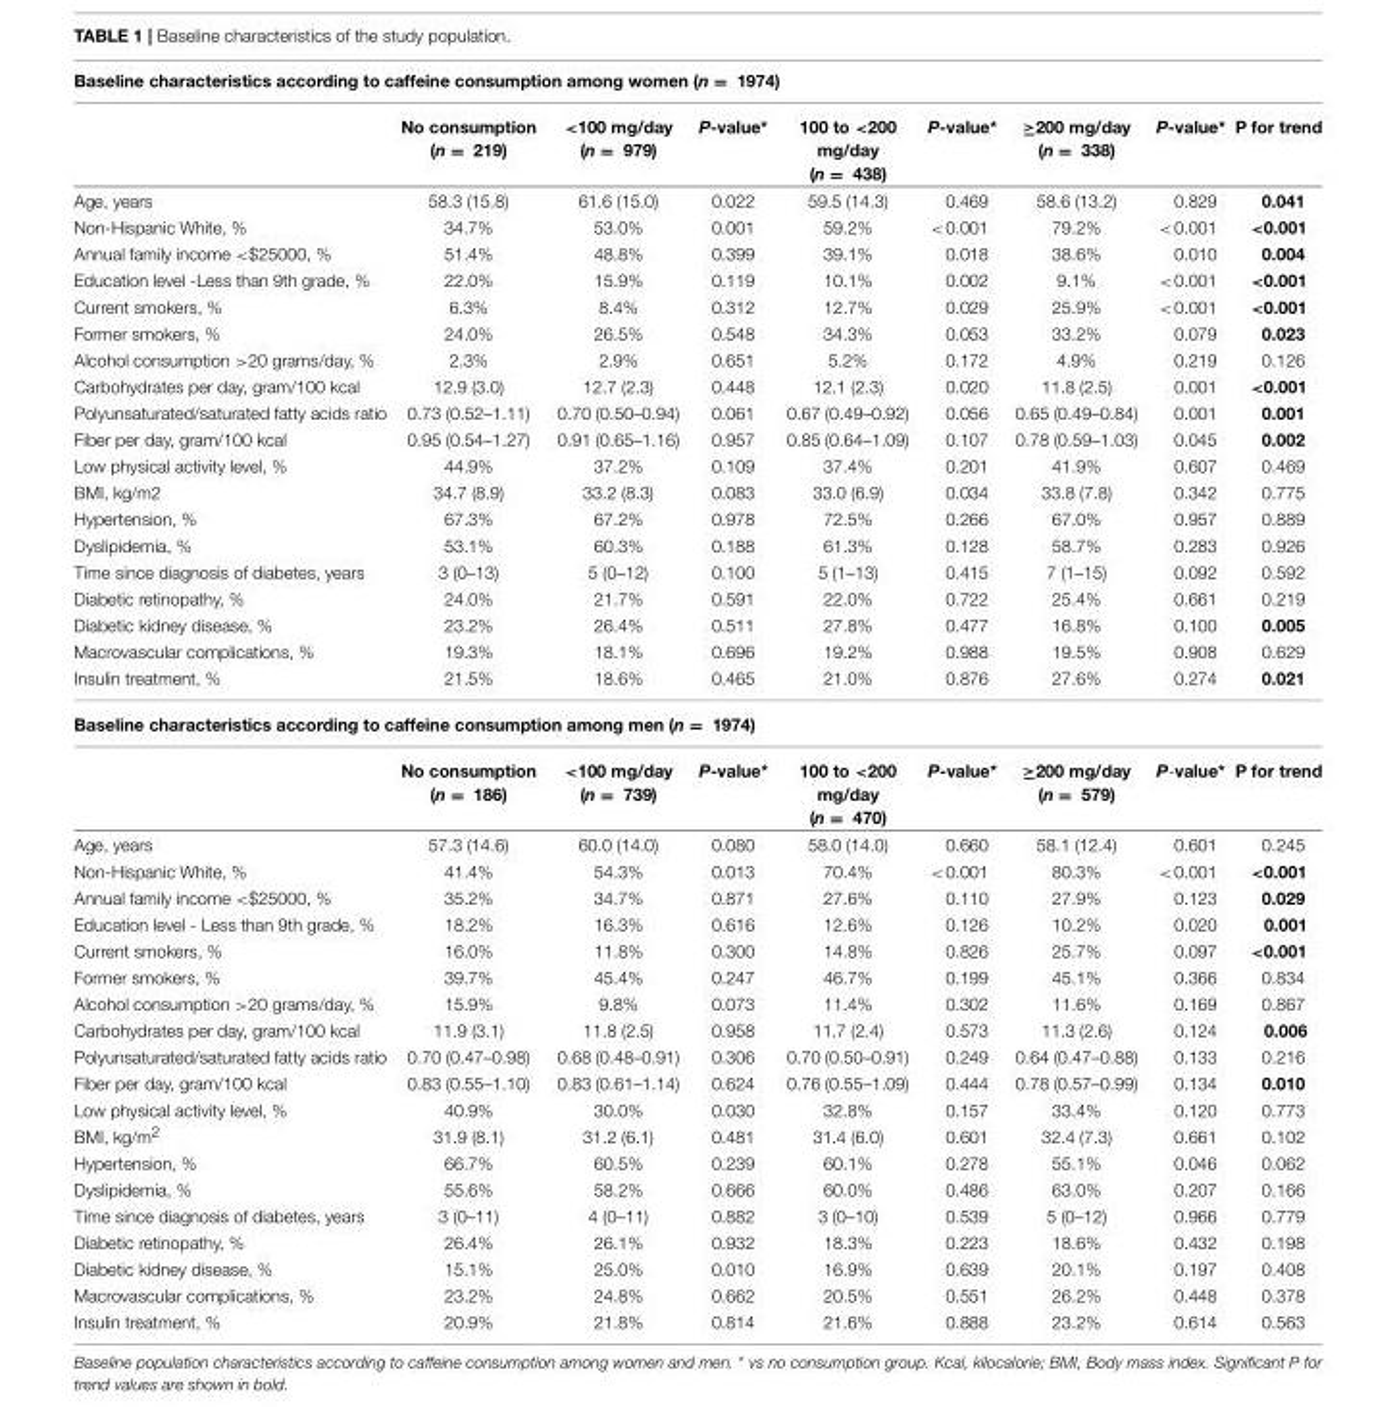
<table><thead><tr><td colspan="9">Baseline characteristics according to caffeine consumption among women (n = 1974)</td></tr><tr><td></td><td>No consumption (n = 219)</td><td>&lt;100 mg/day (n = 979)</td><td>P-value*</td><td>100 to &lt;200 mg/day (n = 438)</td><td>P-value*</td><td>≥200 mg/day (n = 338)</td><td>P-value*</td><td>P for trend</td></tr></thead><tbody><tr><td>Age, years</td><td>58.3 (15.8)</td><td>61.6 (15.0)</td><td>0.022</td><td>59.5 (14.3)</td><td>0.469</td><td>58.6 (13.2)</td><td>0.829</td><td>0.041</td></tr><tr><td>Non-Hispanic White, %</td><td>34.7%</td><td>53.0%</td><td>0.001</td><td>59.2%</td><td>&lt;0.001</td><td>79.2%</td><td>&lt;0.001</td><td>&lt;0.001</td></tr><tr><td>Annual family income &lt;$25000, %</td><td>51.4%</td><td>48.8%</td><td>0.399</td><td>39.1%</td><td>0.018</td><td>38.6%</td><td>0.010</td><td>0.004</td></tr><tr><td>Education level -Less than 9th grade, %</td><td>22.0%</td><td>15.9%</td><td>0.119</td><td>10.1%</td><td>0.002</td><td>9.1%</td><td>&lt;0.001</td><td>&lt;0.001</td></tr><tr><td>Current smokers, %</td><td>6.3%</td><td>8.4%</td><td>0.312</td><td>12.7%</td><td>0.029</td><td>25.9%</td><td>&lt;0.001</td><td>&lt;0.001</td></tr><tr><td>Former smokers, %</td><td>24.0%</td><td>26.5%</td><td>0.548</td><td>34.3%</td><td>0.053</td><td>33.2%</td><td>0.079</td><td>0.023</td></tr><tr><td>Alcohol consumption &gt;20 grams/day, %</td><td>2.3%</td><td>2.9%</td><td>0.651</td><td>5.2%</td><td>0.172</td><td>4.9%</td><td>0.219</td><td>0.126</td></tr><tr><td>Carbohydrates per day, gram/100 kcal</td><td>12.9 (3.0)</td><td>12.7 (2.3)</td><td>0.448</td><td>12.1 (2.3)</td><td>0.020</td><td>11.8 (2.5)</td><td>0.001</td><td>&lt;0.001</td></tr><tr><td>Polyunsaturated/saturated fatty acids ratio</td><td>0.73 (0.52–1.11)</td><td>0.70 (0.50–0.94)</td><td>0.061</td><td>0.67 (0.49–0.92)</td><td>0.056</td><td>0.65 (0.49–0.84)</td><td>0.001</td><td>0.001</td></tr><tr><td>Fiber per day, gram/100 kcal</td><td>0.95 (0.54–1.27)</td><td>0.91 (0.65–1.16)</td><td>0.957</td><td>0.85 (0.64–1.09)</td><td>0.107</td><td>0.78 (0.59–1.03)</td><td>0.045</td><td>0.002</td></tr><tr><td>Low physical activity level, %</td><td>44.9%</td><td>37.2%</td><td>0.109</td><td>37.4%</td><td>0.201</td><td>41.9%</td><td>0.607</td><td>0.469</td></tr><tr><td>BMI, kg/m2</td><td>34.7 (8.9)</td><td>33.2 (8.3)</td><td>0.083</td><td>33.0 (6.9)</td><td>0.034</td><td>33.8 (7.8)</td><td>0.342</td><td>0.775</td></tr><tr><td>Hypertension, %</td><td>67.3%</td><td>67.2%</td><td>0.978</td><td>72.5%</td><td>0.266</td><td>67.0%</td><td>0.957</td><td>0.889</td></tr><tr><td>Dyslipidemia, %</td><td>53.1%</td><td>60.3%</td><td>0.188</td><td>61.3%</td><td>0.128</td><td>58.7%</td><td>0.283</td><td>0.926</td></tr><tr><td>Time since diagnosis of diabetes, years</td><td>3 (0–13)</td><td>5 (0–12)</td><td>0.100</td><td>5 (1–13)</td><td>0.415</td><td>7 (1–15)</td><td>0.092</td><td>0.592</td></tr><tr><td>Diabetic retinopathy, %</td><td>24.0%</td><td>21.7%</td><td>0.591</td><td>22.0%</td><td>0.722</td><td>25.4%</td><td>0.661</td><td>0.219</td></tr><tr><td>Diabetic kidney disease, %</td><td>23.2%</td><td>26.4%</td><td>0.511</td><td>27.8%</td><td>0.477</td><td>16.8%</td><td>0.100</td><td>0.005</td></tr><tr><td>Macrovascular complications, %</td><td>19.3%</td><td>18.1%</td><td>0.696</td><td>19.2%</td><td>0.988</td><td>19.5%</td><td>0.908</td><td>0.629</td></tr><tr><td>Insulin treatment, %</td><td>21.5%</td><td>18.6%</td><td>0.465</td><td>21.0%</td><td>0.876</td><td>27.6%</td><td>0.274</td><td>0.021</td></tr><tr><td colspan="9">Baseline characteristics according to caffeine consumption among men (n = 1974)</td></tr><tr><td></td><td>No consumption (n = 186)</td><td>&lt;100 mg/day (n = 739)</td><td>P-value*</td><td>100 to &lt;200 mg/day (n = 470)</td><td>P-value*</td><td>≥200 mg/day (n = 579)</td><td>P-value*</td><td>P for trend</td></tr><tr><td>Age, years</td><td>57.3 (14.6)</td><td>60.0 (14.0)</td><td>0.080</td><td>58.0 (14.0)</td><td>0.660</td><td>58.1 (12.4)</td><td>0.601</td><td>0.245</td></tr><tr><td>Non-Hispanic White, %</td><td>41.4%</td><td>54.3%</td><td>0.013</td><td>70.4%</td><td>&lt;0.001</td><td>80.3%</td><td>&lt;0.001</td><td>&lt;0.001</td></tr><tr><td>Annual family income &lt;$25000, %</td><td>35.2%</td><td>34.7%</td><td>0.871</td><td>27.6%</td><td>0.110</td><td>27.9%</td><td>0.123</td><td>0.029</td></tr><tr><td>Education level - Less than 9th grade, %</td><td>18.2%</td><td>16.3%</td><td>0.616</td><td>12.6%</td><td>0.126</td><td>10.2%</td><td>0.020</td><td>0.001</td></tr><tr><td>Current smokers, %</td><td>16.0%</td><td>11.8%</td><td>0.300</td><td>14.8%</td><td>0.826</td><td>25.7%</td><td>0.097</td><td>&lt;0.001</td></tr><tr><td>Former smokers, %</td><td>39.7%</td><td>45.4%</td><td>0.247</td><td>46.7%</td><td>0.199</td><td>45.1%</td><td>0.366</td><td>0.834</td></tr><tr><td>Alcohol consumption &gt;20 grams/day, %</td><td>15.9%</td><td>9.8%</td><td>0.073</td><td>11.4%</td><td>0.302</td><td>11.6%</td><td>0.169</td><td>0.867</td></tr><tr><td>Carbohydrates per day, gram/100 kcal</td><td>11.9 (3.1)</td><td>11.8 (2.5)</td><td>0.958</td><td>11.7 (2.4)</td><td>0.573</td><td>11.3 (2.6)</td><td>0.124</td><td>0.006</td></tr><tr><td>Polyunsaturated/saturated fatty acids ratio</td><td>0.70 (0.47–0.98)</td><td>0.68 (0.48–0.91)</td><td>0.306</td><td>0.70 (0.50–0.91)</td><td>0.249</td><td>0.64 (0.47–0.88)</td><td>0.133</td><td>0.216</td></tr><tr><td>Fiber per day, gram/100 kcal</td><td>0.83 (0.55–1.10)</td><td>0.83 (0.61–1.14)</td><td>0.624</td><td>0.76 (0.55–1.09)</td><td>0.444</td><td>0.78 (0.57–0.99)</td><td>0.134</td><td>0.010</td></tr><tr><td>Low physical activity level, %</td><td>40.9%</td><td>30.0%</td><td>0.030</td><td>32.8%</td><td>0.157</td><td>33.4%</td><td>0.120</td><td>0.773</td></tr><tr><td>BMI, kg/m<sup>2</sup></td><td>31.9 (8.1)</td><td>31.2 (6.1)</td><td>0.481</td><td>31.4 (6.0)</td><td>0.601</td><td>32.4 (7.3)</td><td>0.661</td><td>0.102</td></tr><tr><td>Hypertension, %</td><td>66.7%</td><td>60.5%</td><td>0.239</td><td>60.1%</td><td>0.278</td><td>55.1%</td><td>0.046</td><td>0.062</td></tr><tr><td>Dyslipidemia, %</td><td>55.6%</td><td>58.2%</td><td>0.666</td><td>60.0%</td><td>0.486</td><td>63.0%</td><td>0.207</td><td>0.166</td></tr><tr><td>Time since diagnosis of diabetes, years</td><td>3 (0–11)</td><td>4 (0–11)</td><td>0.882</td><td>3 (0–10)</td><td>0.539</td><td>5 (0–12)</td><td>0.966</td><td>0.779</td></tr><tr><td>Diabetic retinopathy, %</td><td>26.4%</td><td>26.1%</td><td>0.932</td><td>18.3%</td><td>0.223</td><td>18.6%</td><td>0.432</td><td>0.198</td></tr><tr><td>Diabetic kidney disease, %</td><td>15.1%</td><td>25.0%</td><td>0.010</td><td>16.9%</td><td>0.639</td><td>20.1%</td><td>0.197</td><td>0.408</td></tr><tr><td>Macrovascular complications, %</td><td>23.2%</td><td>24.8%</td><td>0.662</td><td>20.5%</td><td>0.551</td><td>26.2%</td><td>0.448</td><td>0.378</td></tr><tr><td>Insulin treatment, %</td><td>20.9%</td><td>21.8%</td><td>0.814</td><td>21.6%</td><td>0.888</td><td>23.2%</td><td>0.614</td><td>0.563</td></tr></tbody></table>